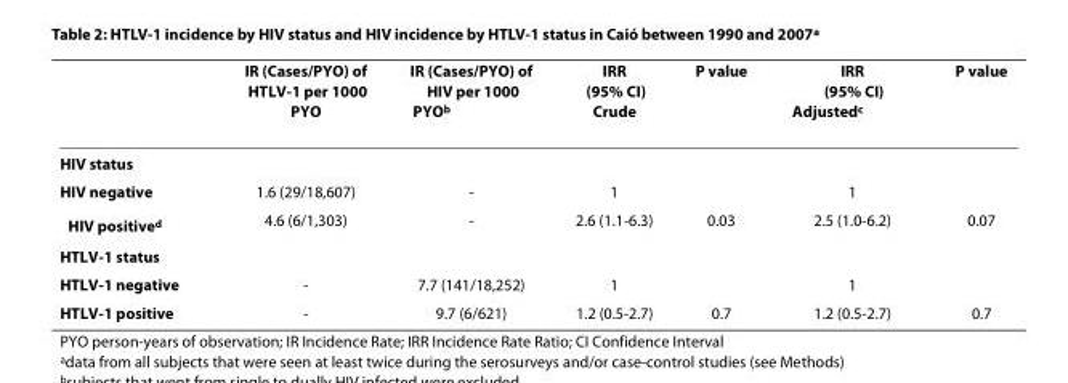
<table><thead><tr><td></td><td>IR (Cases/PYO) of HTLV-1 per 1000 PYO</td><td>IR (Cases/PYO) of HIV per 1000 PYO<sup>b</sup></td><td>IRR (95% CI) Crude</td><td>P value</td><td>IRR (95% CI) Adjusted<sup>c</sup></td><td>P value</td></tr></thead><tbody><tr><td colspan="7">HIV status</td></tr><tr><td>HIV negative</td><td>1.6 (29/18,607)</td><td>-</td><td>1</td><td></td><td>1</td><td></td></tr><tr><td>HIV positive<sup>d</sup></td><td>4.6 (6/1,303)</td><td>-</td><td>2.6 (1.1-6.3)</td><td>0.03</td><td>2.5 (1.0-6.2)</td><td>0.07</td></tr><tr><td colspan="7">HTLV-1 status</td></tr><tr><td>HTLV-1 negative</td><td>-</td><td>7.7 (141/18,252)</td><td>1</td><td></td><td>1</td><td></td></tr><tr><td>HTLV-1 positive</td><td>-</td><td>9.7 (6/621)</td><td>1.2 (0.5-2.7)</td><td>0.7</td><td>1.2 (0.5-2.7)</td><td>0.7</td></tr></tbody></table>